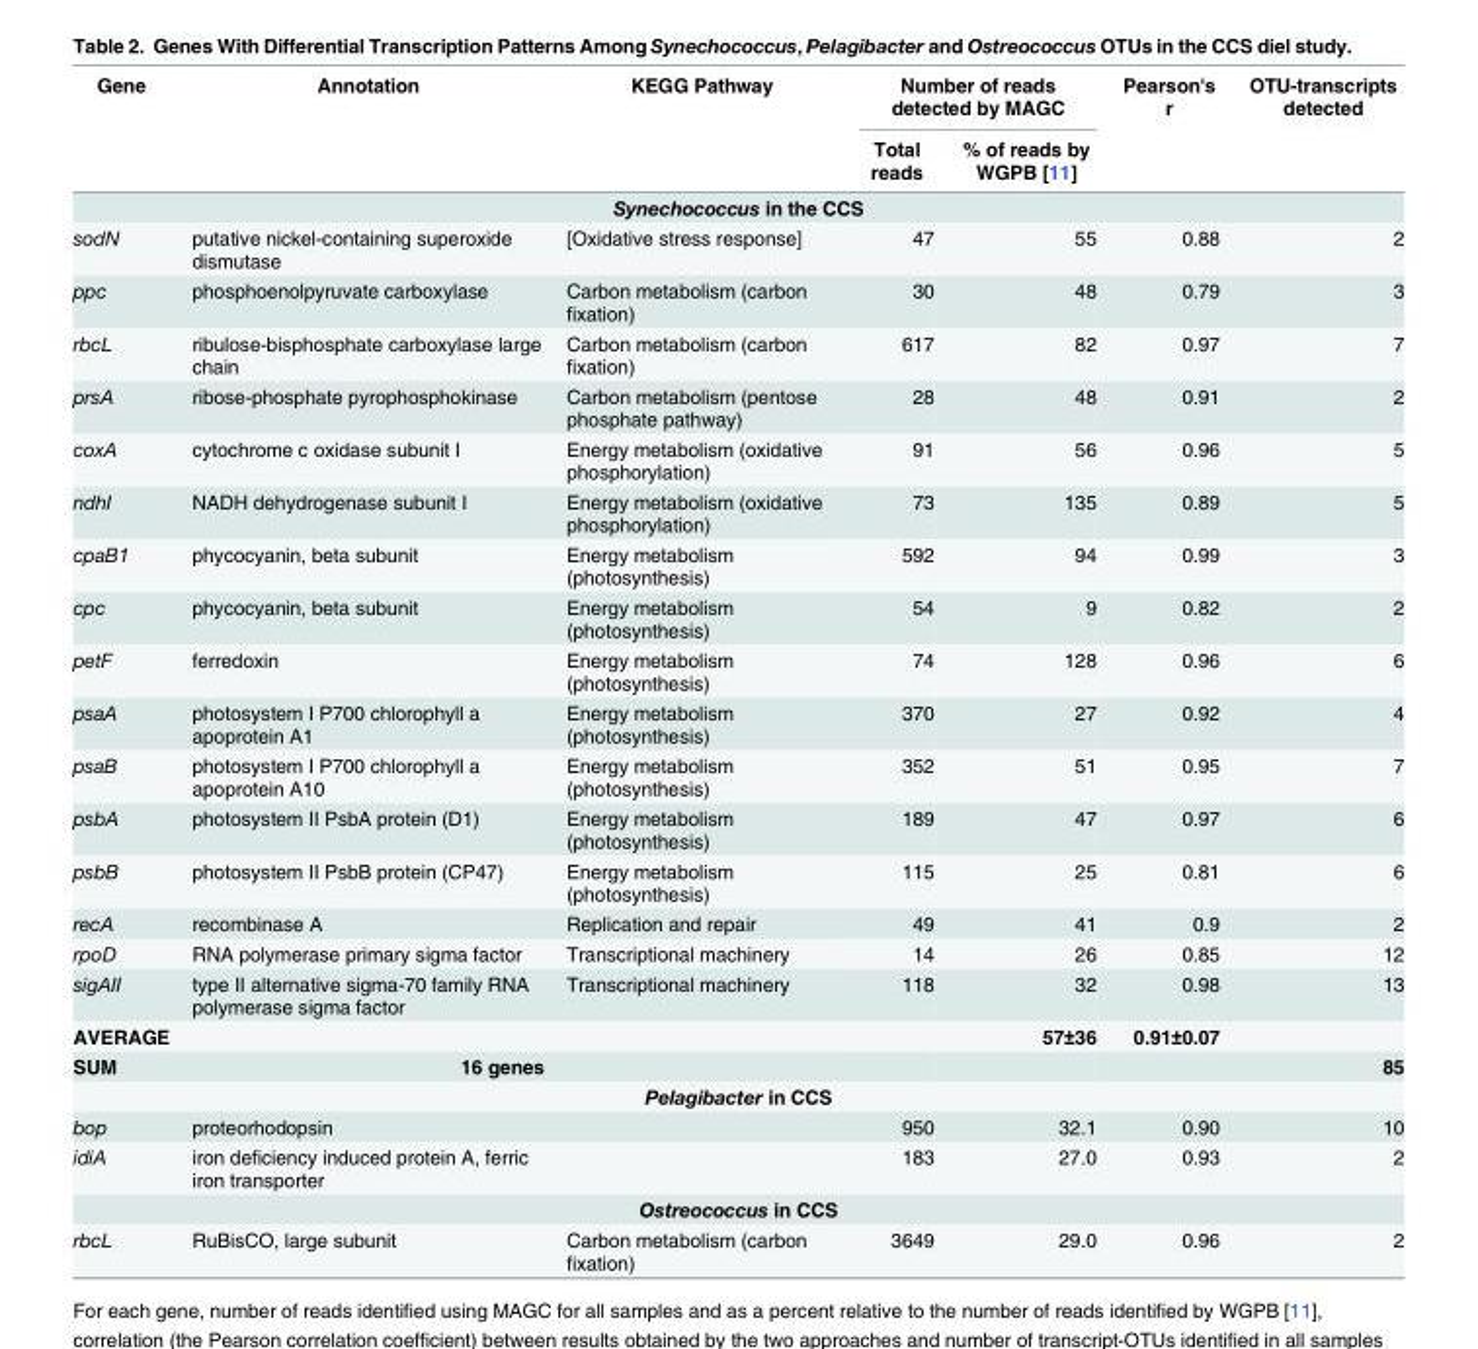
<table><thead><tr><td rowspan="2">Gene</td><td rowspan="2">Annotation</td><td rowspan="2">KEGG Pathway</td><td colspan="2">Number of reads detected by MAGC</td><td rowspan="2">Pearson&#x27;s r</td><td rowspan="2">OTU-transcripts detected</td></tr><tr><td>Total reads</td><td>% of reads by WGPB [11]</td></tr></thead><tbody><tr><td colspan="7">Synechococcus in the CCS</td></tr><tr><td>sodN</td><td>putative nickel-containing superoxide dismutase</td><td>[Oxidative stress response]</td><td>47</td><td>55</td><td>0.88</td><td>2</td></tr><tr><td>ppc</td><td>phosphoenolpyruvate carboxylase</td><td>Carbon metabolism (carbon fixation)</td><td>30</td><td>48</td><td>0.79</td><td>3</td></tr><tr><td>rbcL</td><td>ribulose-bisphosphate carboxylase large chain</td><td>Carbon metabolism (carbon fixation)</td><td>617</td><td>82</td><td>0.97</td><td>7</td></tr><tr><td>prsA</td><td>ribose-phosphate pyrophosphokinase</td><td>Carbon metabolism (pentose phosphate pathway)</td><td>28</td><td>48</td><td>0.91</td><td>2</td></tr><tr><td>coxA</td><td>cytochrome c oxidase subunit I</td><td>Energy metabolism (oxidative phosphorylation)</td><td>91</td><td>56</td><td>0.96</td><td>5</td></tr><tr><td>ndhI</td><td>NADH dehydrogenase subunit I</td><td>Energy metabolism (oxidative phosphorylation)</td><td>73</td><td>135</td><td>0.89</td><td>5</td></tr><tr><td>cpaB1</td><td>phycocyanin, beta subunit</td><td>Energy metabolism (photosynthesis)</td><td>592</td><td>94</td><td>0.99</td><td>3</td></tr><tr><td>cpc</td><td>phycocyanin, beta subunit</td><td>Energy metabolism (photosynthesis)</td><td>54</td><td>9</td><td>0.82</td><td>2</td></tr><tr><td>petF</td><td>ferredoxin</td><td>Energy metabolism (photosynthesis)</td><td>74</td><td>128</td><td>0.96</td><td>6</td></tr><tr><td>psaA</td><td>photosystem I P700 chlorophyll a apoprotein A1</td><td>Energy metabolism (photosynthesis)</td><td>370</td><td>27</td><td>0.92</td><td>4</td></tr><tr><td>psaB</td><td>photosystem I P700 chlorophyll a apoprotein A10</td><td>Energy metabolism (photosynthesis)</td><td>352</td><td>51</td><td>0.95</td><td>7</td></tr><tr><td>psbA</td><td>photosystem II PsbA protein (D1)</td><td>Energy metabolism (photosynthesis)</td><td>189</td><td>47</td><td>0.97</td><td>6</td></tr><tr><td>psbB</td><td>photosystem II PsbB protein (CP47)</td><td>Energy metabolism (photosynthesis)</td><td>115</td><td>25</td><td>0.81</td><td>6</td></tr><tr><td>recA</td><td>recombinase A</td><td>Replication and repair</td><td>49</td><td>41</td><td>0.9</td><td>2</td></tr><tr><td>rpoD</td><td>RNA polymerase primary sigma factor</td><td>Transcriptional machinery</td><td>14</td><td>26</td><td>0.85</td><td>12</td></tr><tr><td>sigAII</td><td>type II alternative sigma-70 family RNA polymerase sigma factor</td><td>Transcriptional machinery</td><td>118</td><td>32</td><td>0.98</td><td>13</td></tr><tr><td>AVERAGE</td><td></td><td></td><td></td><td>57±36</td><td>0.91±0.07</td><td></td></tr><tr><td>SUM</td><td>16 genes</td><td></td><td></td><td></td><td></td><td>85</td></tr><tr><td colspan="7">Pelagibacter in CCS</td></tr><tr><td>bop</td><td>proteorhodopsin</td><td></td><td>950</td><td>32.1</td><td>0.90</td><td>10</td></tr><tr><td>idiA</td><td>iron deficiency induced protein A, ferric iron transporter</td><td></td><td>183</td><td>27.0</td><td>0.93</td><td>2</td></tr><tr><td colspan="7">Ostreococcus in CCS</td></tr><tr><td>rbcL</td><td>RuBisCO, large subunit</td><td>Carbon metabolism (carbon fixation)</td><td>3649</td><td>29.0</td><td>0.96</td><td>2</td></tr></tbody></table>